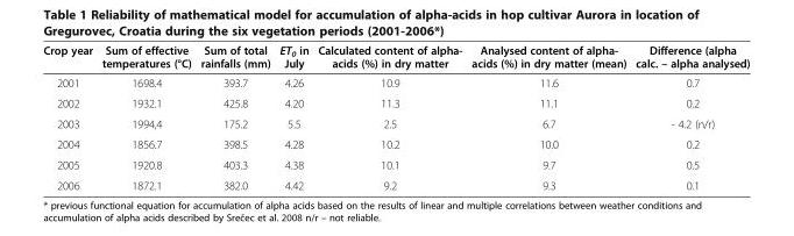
<table><thead><tr><td>Crop year</td><td>Sum of effective temperatures (°C)</td><td>Sum of total rainfalls (mm)</td><td>ET<sub>0</sub> in July</td><td>Calculated content of alpha- acids (%) in dry matter</td><td>Analysed content of alpha- acids (%) in dry matter (mean)</td><td>Difference (alpha calc. – alpha analysed)</td></tr></thead><tbody><tr><td>2001</td><td>1698.4</td><td>393.7</td><td>4.26</td><td>10.9</td><td>11.6</td><td>0.7</td></tr><tr><td>2002</td><td>1932.1</td><td>425.8</td><td>4.20</td><td>11.3</td><td>11.1</td><td>0.2</td></tr><tr><td>2003</td><td>1994,4</td><td>175.2</td><td>5.5</td><td>2.5</td><td>6.7</td><td>- 4.2 (n/r)</td></tr><tr><td>2004</td><td>1856.7</td><td>398.5</td><td>4.28</td><td>10.2</td><td>10.0</td><td>0.2</td></tr><tr><td>2005</td><td>1920.8</td><td>403.3</td><td>4.38</td><td>10.1</td><td>9.7</td><td>0.5</td></tr><tr><td>2006</td><td>1872.1</td><td>382.0</td><td>4.42</td><td>9.2</td><td>9.3</td><td>0.1</td></tr></tbody></table>